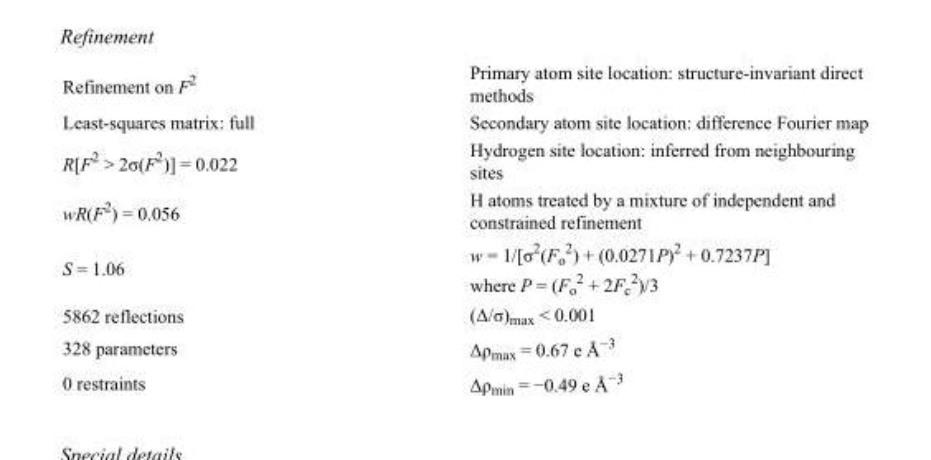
<table><tbody><tr><td>Refinement on F<sup>2</sup></td><td>Primary atom site location: structure-invariant direct methods</td></tr><tr><td>Least-squares matrix: full</td><td>Secondary atom site location: difference Fourier map</td></tr><tr><td>R[F<sup>2</sup> &gt; 2σ(F<sup>2</sup>)] = 0.022</td><td>Hydrogen site location: inferred from neighbouring sites</td></tr><tr><td>wR(F<sup>2</sup>) = 0.056</td><td>H atoms treated by a mixture of independent and constrained refinement</td></tr><tr><td>S = 1.06</td><td>w = 1/[σ<sup>2</sup>(F<sub>o</sub> <sup>2</sup>) + (0.0271P)<sup>2</sup> + 0.7237P] where P = (F<sub>o</sub> <sup>2</sup> + 2F<sub>c</sub> <sup>2</sup>)/3</td></tr><tr><td>5862 reflections</td><td>(Δ/σ)<sub>max</sub> &lt; 0.001</td></tr><tr><td>328 parameters</td><td>Δρ<sub>max</sub> = 0.67 e Å<sup>−3</sup></td></tr><tr><td>0 restraints</td><td>Δρ<sub>min</sub> = −0.49 e Å<sup>−3</sup></td></tr></tbody></table>